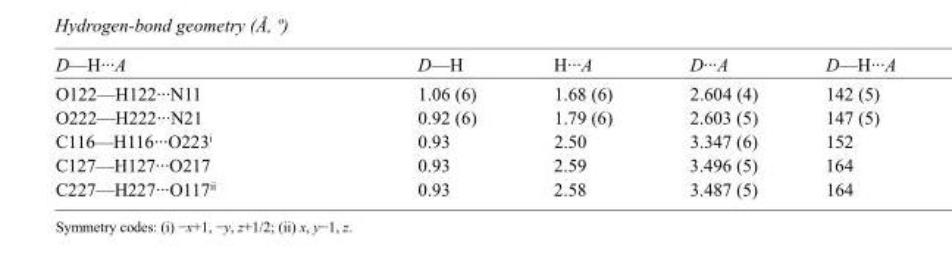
<table><tbody><tr><td>D—H···A</td><td>D—H</td><td>H···A</td><td>D···A</td><td>D—H···A</td></tr><tr><td>O122—H122···N11</td><td>1.06 (6)</td><td>1.68 (6)</td><td>2.604 (4)</td><td>142 (5)</td></tr><tr><td>O222—H222···N21</td><td>0.92 (6)</td><td>1.79 (6)</td><td>2.603 (5)</td><td>147 (5)</td></tr><tr><td>C116—H116···O223<sup>i</sup></td><td>0.93</td><td>2.50</td><td>3.347 (6)</td><td>152</td></tr><tr><td>C127—H127···O217</td><td>0.93</td><td>2.59</td><td>3.496 (5)</td><td>164</td></tr><tr><td>C227—H227···O117<sup>ii</sup></td><td>0.93</td><td>2.58</td><td>3.487 (5)</td><td>164</td></tr></tbody></table>